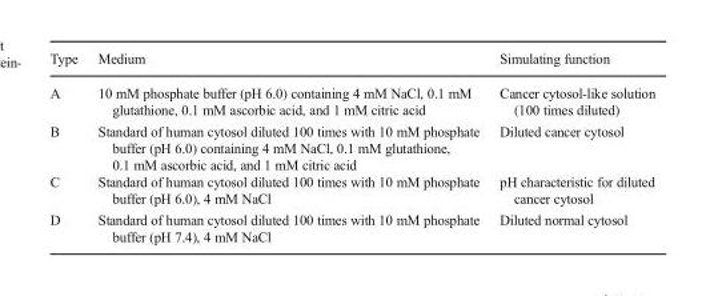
<table><thead><tr><td>Type</td><td>Medium</td><td>Simulating function</td></tr></thead><tbody><tr><td>A</td><td>10 mM phosphate buffer (pH 6.0) containing 4 mM NaCl, 0.1 mM glutathione, 0.1 mM ascorbic acid, and 1 mM citric acid</td><td>Cancer cytosol-like solution (100 times diluted)</td></tr><tr><td>B</td><td>Standard of human cytosol diluted 100 times with 10 mM phosphate buffer (pH 6.0) containing 4 mM NaCl, 0.1 mM glutathione, 0.1 mM ascorbic acid, and 1 mM citric acid</td><td>Diluted cancer cytosol</td></tr><tr><td>C</td><td>Standard of human cytosol diluted 100 times with 10 mM phosphate buffer (pH 6.0), 4 mM NaCl</td><td>pH characteristic for diluted cancer cytosol</td></tr><tr><td>D</td><td>Standard of human cytosol diluted 100 times with 10 mM phosphate buffer (pH 7.4), 4 mM NaCl</td><td>Diluted normal cytosol</td></tr></tbody></table>